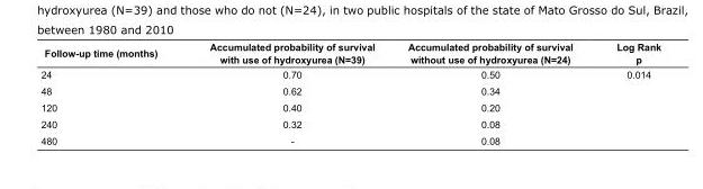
<table><thead><tr><td>Follow-up time (months)</td><td>Accumulated probability of survival with use of hydroxyurea (N=39)</td><td>Accumulated probability of survival without use of hydroxyurea (N=24)</td><td>Log Rank p</td></tr></thead><tbody><tr><td>24</td><td>0.70</td><td>0.50</td><td>0.014</td></tr><tr><td>48</td><td>0.62</td><td>0.34</td><td></td></tr><tr><td>120</td><td>0.40</td><td>0.20</td><td></td></tr><tr><td>240</td><td>0.32</td><td>0.08</td><td></td></tr><tr><td>480</td><td>-</td><td>0.08</td><td></td></tr></tbody></table>